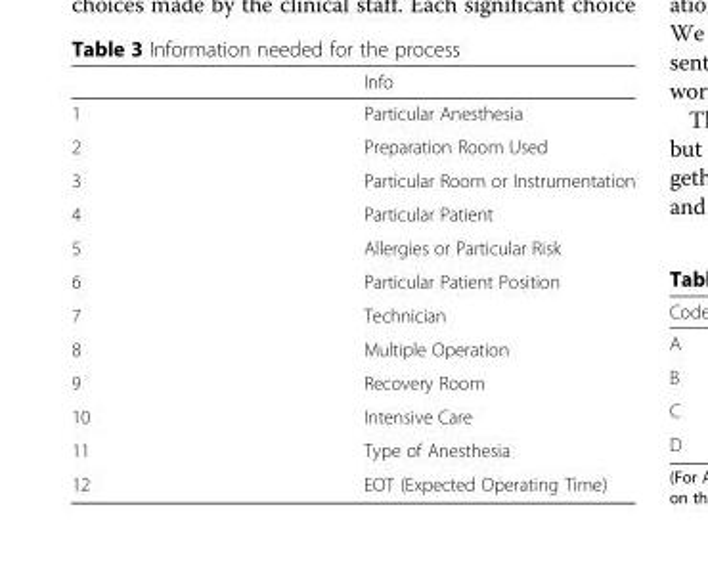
<table><thead><tr><td></td><td>Info</td></tr></thead><tbody><tr><td>1</td><td>Particular Anesthesia</td></tr><tr><td>2</td><td>Preparation Room Used</td></tr><tr><td>3</td><td>Particular Room or Instrumentation</td></tr><tr><td>4</td><td>Particular Patient</td></tr><tr><td>5</td><td>Allergies or Particular Risk</td></tr><tr><td>6</td><td>Particular Patient Position</td></tr><tr><td>7</td><td>Technician</td></tr><tr><td>8</td><td>Multiple Operation</td></tr><tr><td>9</td><td>Recovery Room</td></tr><tr><td>10</td><td>Intensive Care</td></tr><tr><td>11</td><td>Type of Anesthesia</td></tr><tr><td>12</td><td>EOT (Expected Operating Time)</td></tr></tbody></table>